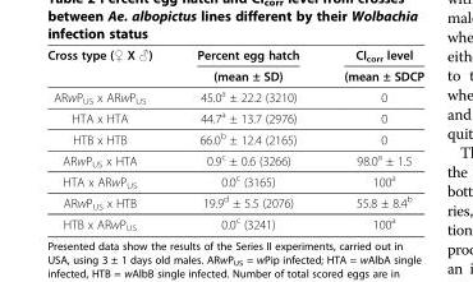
<table><thead><tr><td rowspan="2">Cross type (♀ X ♂)</td><td rowspan="2">Percent egg hatch (mean ± SD)</td><td rowspan="2">CI<sub>corr</sub> level (mean ± SDCP</td></tr><tr></tr></thead><tbody><tr><td>ARwP<sub>US</sub> x ARwP<sub>US</sub></td><td>45.0<sup>a</sup> ± 22.2 (3210)</td><td>0</td></tr><tr><td>HTA x HTA</td><td>44.7<sup>a</sup> ± 13.7 (2976)</td><td>0</td></tr><tr><td>HTB x HTB</td><td>66.0<sup>b</sup> ± 12.4 (2165)</td><td>0</td></tr><tr><td>ARwP<sub>US</sub> x HTA</td><td>0.9<sup>c</sup> ± 0.6 (3266)</td><td>98.0<sup>a</sup> ± 1.5</td></tr><tr><td>HTA x ARwP<sub>US</sub></td><td>0.0<sup>c</sup> (3165)</td><td>100<sup>a</sup></td></tr><tr><td>ARwP<sub>US</sub> x HTB</td><td>19.9<sup>d</sup> ± 5.5 (2076)</td><td>55.8 ± 8.4<sup>b</sup></td></tr><tr><td>HTB x ARwP<sub>US</sub></td><td>0.0<sup>c</sup> (3241)</td><td>100<sup>a</sup></td></tr></tbody></table>